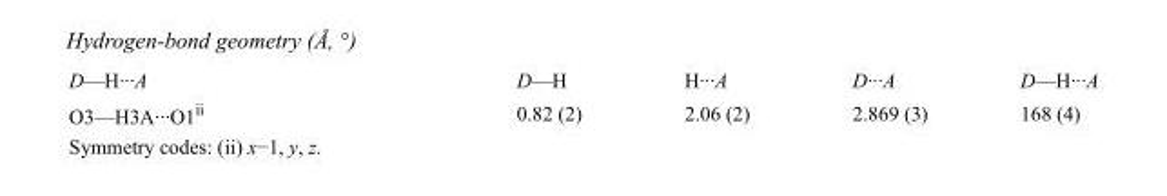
<table><tbody><tr><td>D—H···A</td><td>D—H</td><td>H···A</td><td>D···A</td><td>D—H···A</td></tr><tr><td>O3—H3A···O1<sup>ii</sup></td><td>0.82 (2)</td><td>2.06 (2)</td><td>2.869 (3)</td><td>168 (4)</td></tr></tbody></table>